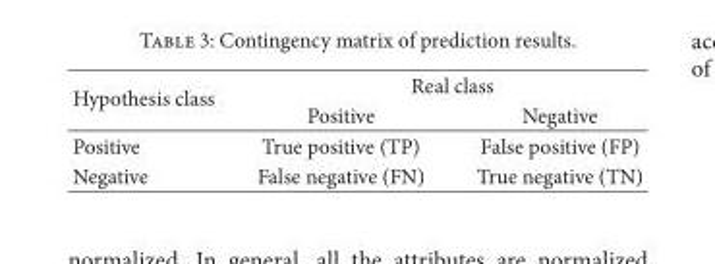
<table><thead><tr><td rowspan="2">Hypothesis class</td><td colspan="2">Real class</td></tr><tr><td>Positive</td><td>Negative</td></tr></thead><tbody><tr><td>Positive</td><td>True positive (TP)</td><td>False positive (FP)</td></tr><tr><td>Negative</td><td>False negative (FN)</td><td>True negative (TN)</td></tr></tbody></table>